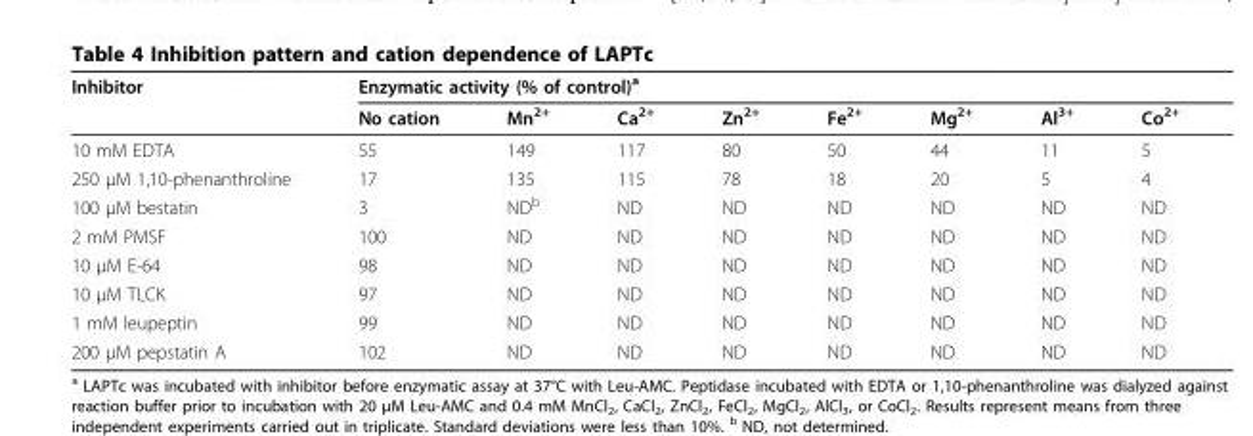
<table><thead><tr><td rowspan="2">Inhibitor</td><td colspan="8">Enzymatic activity (% of control)<sup>a</sup></td></tr><tr><td>No cation</td><td>Mn<sup>2+</sup></td><td>Ca<sup>2+</sup></td><td>Zn<sup>2+</sup></td><td>Fe<sup>2+</sup></td><td>Mg<sup>2+</sup></td><td>Al<sup>3+</sup></td><td>Co<sup>2+</sup></td></tr></thead><tbody><tr><td>10 mM EDTA</td><td>55</td><td>149</td><td>117</td><td>80</td><td>50</td><td>44</td><td>11</td><td>5</td></tr><tr><td>250 μM 1,10-phenanthroline</td><td>17</td><td>135</td><td>115</td><td>78</td><td>18</td><td>20</td><td>5</td><td>4</td></tr><tr><td>100 μM bestatin</td><td>3</td><td>ND<sup>b</sup></td><td>ND</td><td>ND</td><td>ND</td><td>ND</td><td>ND</td><td>ND</td></tr><tr><td>2 mM PMSF</td><td>100</td><td>ND</td><td>ND</td><td>ND</td><td>ND</td><td>ND</td><td>ND</td><td>ND</td></tr><tr><td>10 μM E-64</td><td>98</td><td>ND</td><td>ND</td><td>ND</td><td>ND</td><td>ND</td><td>ND</td><td>ND</td></tr><tr><td>10 μM TLCK</td><td>97</td><td>ND</td><td>ND</td><td>ND</td><td>ND</td><td>ND</td><td>ND</td><td>ND</td></tr><tr><td>1 mM leupeptin</td><td>99</td><td>ND</td><td>ND</td><td>ND</td><td>ND</td><td>ND</td><td>ND</td><td>ND</td></tr><tr><td>200 μM pepstatin A</td><td>102</td><td>ND</td><td>ND</td><td>ND</td><td>ND</td><td>ND</td><td>ND</td><td>ND</td></tr></tbody></table>